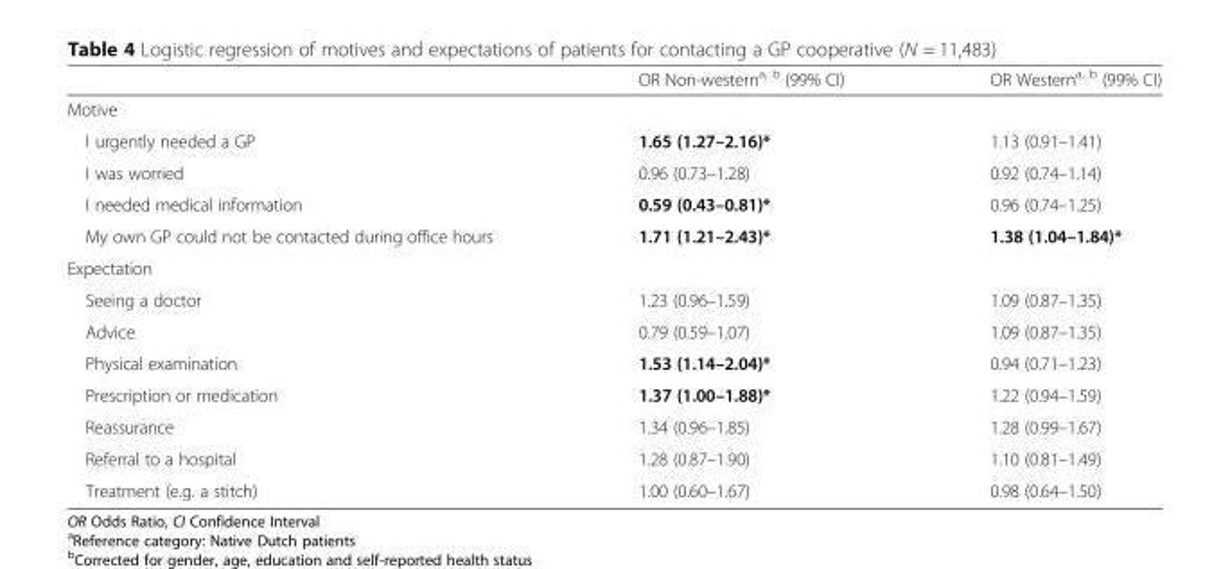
<table><thead><tr><td></td><td>OR Non-western<sup>a, b</sup> (99% CI)</td><td>OR Western<sup>a, b</sup> (99% CI)</td></tr></thead><tbody><tr><td colspan="3">Motive</td></tr><tr><td>I urgently needed a GP</td><td>1.65 (1.27–2.16)*</td><td>1.13 (0.91–1.41)</td></tr><tr><td>I was worried</td><td>0.96 (0.73–1.28)</td><td>0.92 (0.74–1.14)</td></tr><tr><td>I needed medical information</td><td>0.59 (0.43–0.81)*</td><td>0.96 (0.74–1.25)</td></tr><tr><td>My own GP could not be contacted during office hours</td><td>1.71 (1.21–2.43)*</td><td>1.38 (1.04–1.84)*</td></tr><tr><td colspan="3">Expectation</td></tr><tr><td>Seeing a doctor</td><td>1.23 (0.96–1.59)</td><td>1.09 (0.87–1.35)</td></tr><tr><td>Advice</td><td>0.79 (0.59–1.07)</td><td>1.09 (0.87–1.35)</td></tr><tr><td>Physical examination</td><td>1.53 (1.14–2.04)*</td><td>0.94 (0.71–1.23)</td></tr><tr><td>Prescription or medication</td><td>1.37 (1.00–1.88)*</td><td>1.22 (0.94–1.59)</td></tr><tr><td>Reassurance</td><td>1.34 (0.96–1.85)</td><td>1.28 (0.99–1.67)</td></tr><tr><td>Referral to a hospital</td><td>1.28 (0.87–1.90)</td><td>1.10 (0.81–1.49)</td></tr><tr><td>Treatment (e.g. a stitch)</td><td>1.00 (0.60–1.67)</td><td>0.98 (0.64–1.50)</td></tr></tbody></table>